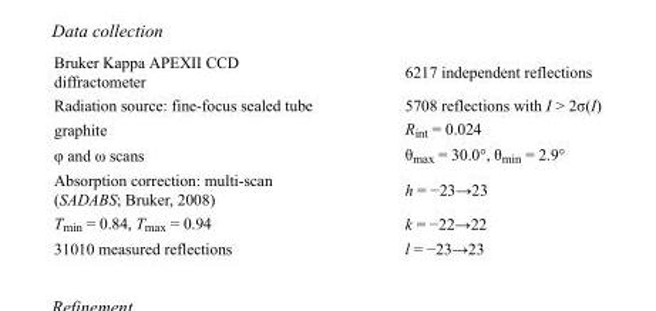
<table><tbody><tr><td>Bruker Kappa APEXII CCD diffractometer</td><td>6217 independent reflections</td></tr><tr><td>Radiation source: fine-focus sealed tube</td><td>5708 reflections with I &gt; 2σ(I)</td></tr><tr><td>graphite</td><td>R<sub>int</sub> = 0.024</td></tr><tr><td>φ and ω scans</td><td>θ<sub>max</sub> = 30.0°, θ<sub>min</sub> = 2.9°</td></tr><tr><td>Absorption correction: multi-scan (SADABS; Bruker, 2008)</td><td>h = −23→23</td></tr><tr><td>T<sub>min</sub> = 0.84, T<sub>max</sub> = 0.94</td><td>k = −22→22</td></tr><tr><td>31010 measured reflections</td><td>l = −23→23</td></tr></tbody></table>